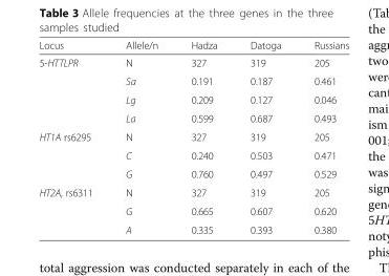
<table><thead><tr><td>Locus</td><td>Allele/n</td><td>Hadza</td><td>Datoga</td><td>Russians</td></tr></thead><tbody><tr><td rowspan="4">5-HTTLPR</td><td>N</td><td>327</td><td>319</td><td>205</td></tr><tr><td>Sa</td><td>0.191</td><td>0.187</td><td>0.461</td></tr><tr><td>Lg</td><td>0.209</td><td>0.127</td><td>0.046</td></tr><tr><td>La</td><td>0.599</td><td>0.687</td><td>0.493</td></tr><tr><td rowspan="3">HT1A rs6295</td><td>N</td><td>327</td><td>319</td><td>205</td></tr><tr><td>C</td><td>0.240</td><td>0.503</td><td>0.471</td></tr><tr><td>G</td><td>0.760</td><td>0.497</td><td>0.529</td></tr><tr><td rowspan="3">HT2A, rs6311</td><td>N</td><td>327</td><td>319</td><td>205</td></tr><tr><td>G</td><td>0.665</td><td>0.607</td><td>0.620</td></tr><tr><td>A</td><td>0.335</td><td>0.393</td><td>0.380</td></tr></tbody></table>